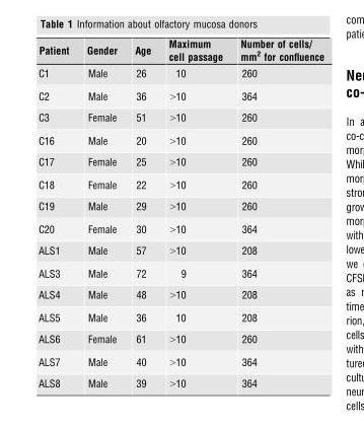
<table><thead><tr><td>Patient</td><td>Gender</td><td>Age</td><td>Maximum cell passage</td><td>Number of cells/ mm<sup>2</sup> for confluence</td></tr></thead><tbody><tr><td>C1</td><td>Male</td><td>26</td><td>10</td><td>260</td></tr><tr><td>C2</td><td>Male</td><td>36</td><td>&gt;10</td><td>364</td></tr><tr><td>C3</td><td>Female</td><td>51</td><td>&gt;10</td><td>260</td></tr><tr><td>C16</td><td>Male</td><td>20</td><td>&gt;10</td><td>260</td></tr><tr><td>C17</td><td>Female</td><td>25</td><td>&gt;10</td><td>260</td></tr><tr><td>C18</td><td>Female</td><td>22</td><td>&gt;10</td><td>260</td></tr><tr><td>C19</td><td>Male</td><td>29</td><td>&gt;10</td><td>260</td></tr><tr><td>C20</td><td>Female</td><td>30</td><td>&gt;10</td><td>364</td></tr><tr><td>ALS1</td><td>Male</td><td>57</td><td>&gt;10</td><td>208</td></tr><tr><td>ALS3</td><td>Male</td><td>72</td><td>9</td><td>364</td></tr><tr><td>ALS4</td><td>Male</td><td>48</td><td>&gt;10</td><td>208</td></tr><tr><td>ALS5</td><td>Male</td><td>36</td><td>10</td><td>208</td></tr><tr><td>ALS6</td><td>Female</td><td>61</td><td>&gt;10</td><td>260</td></tr><tr><td>ALS7</td><td>Male</td><td>40</td><td>&gt;10</td><td>364</td></tr><tr><td>ALS8</td><td>Male</td><td>39</td><td>&gt;10</td><td>364</td></tr></tbody></table>